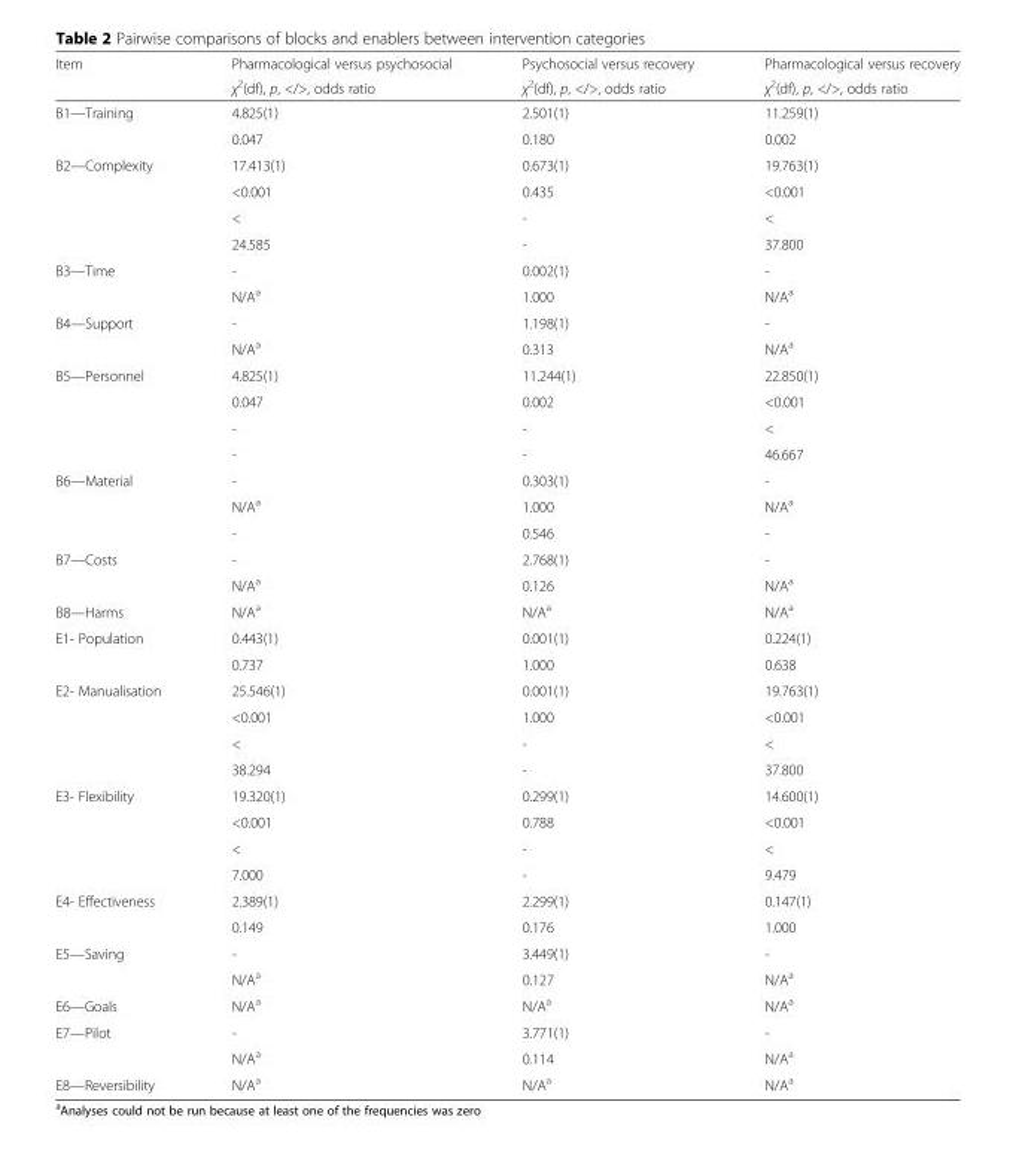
<table><thead><tr><td rowspan="2">Item</td><td rowspan="2">Pharmacological versus psychosocial χ<sup>2</sup>(df), p, &lt;/&gt;, odds ratio</td><td rowspan="2">Psychosocial versus recovery χ<sup>2</sup>(df), p, &lt;/&gt;, odds ratio</td><td rowspan="2">Pharmacological versus recovery χ<sup>2</sup>(df), p, &lt;/&gt;, odds ratio</td></tr><tr></tr></thead><tbody><tr><td rowspan="2">B1—Training</td><td>4.825(1)</td><td>2.501(1)</td><td>11.259(1)</td></tr><tr><td>0.047</td><td>0.180</td><td>0.002</td></tr><tr><td rowspan="4">B2—Complexity</td><td>17.413(1)</td><td>0.673(1)</td><td>19.763(1)</td></tr><tr><td>&lt;0.001</td><td>0.435</td><td>&lt;0.001</td></tr><tr><td>&lt;</td><td>-</td><td>&lt;</td></tr><tr><td>24.585</td><td>-</td><td>37.800</td></tr><tr><td rowspan="2">B3—Time</td><td>-</td><td>0.002(1)</td><td>-</td></tr><tr><td>N/A<sup>a</sup></td><td>1.000</td><td>N/A<sup>a</sup></td></tr><tr><td rowspan="2">B4—Support</td><td>-</td><td>1.198(1)</td><td>-</td></tr><tr><td>N/A<sup>a</sup></td><td>0.313</td><td>N/A<sup>a</sup></td></tr><tr><td rowspan="4">B5—Personnel</td><td>4.825(1)</td><td>11.244(1)</td><td>22.850(1)</td></tr><tr><td>0.047</td><td>0.002</td><td>&lt;0.001</td></tr><tr><td>-</td><td>-</td><td>&lt;</td></tr><tr><td>-</td><td>-</td><td>46.667</td></tr><tr><td rowspan="3">B6—Material</td><td>-</td><td>0.303(1)</td><td>-</td></tr><tr><td>N/A<sup>a</sup></td><td>1.000</td><td>N/A<sup>a</sup></td></tr><tr><td>-</td><td>0.546</td><td>-</td></tr><tr><td rowspan="2">B7—Costs</td><td>-</td><td>2.768(1)</td><td>-</td></tr><tr><td>N/A<sup>a</sup></td><td>0.126</td><td>N/A<sup>a</sup></td></tr><tr><td>B8—Harms</td><td>N/A<sup>a</sup></td><td>N/A<sup>a</sup></td><td>N/A<sup>a</sup></td></tr><tr><td rowspan="2">E1- Population</td><td>0.443(1)</td><td>0.001(1)</td><td>0.224(1)</td></tr><tr><td>0.737</td><td>1.000</td><td>0.638</td></tr><tr><td rowspan="4">E2- Manualisation</td><td>25.546(1)</td><td>0.001(1)</td><td>19.763(1)</td></tr><tr><td>&lt;0.001</td><td>1.000</td><td>&lt;0.001</td></tr><tr><td>&lt;</td><td>-</td><td>&lt;</td></tr><tr><td>38.294</td><td>-</td><td>37.800</td></tr><tr><td rowspan="4">E3- Flexibility</td><td>19.320(1)</td><td>0.299(1)</td><td>14.600(1)</td></tr><tr><td>&lt;0.001</td><td>0.788</td><td>&lt;0.001</td></tr><tr><td>&lt;</td><td>-</td><td>&lt;</td></tr><tr><td>7.000</td><td>-</td><td>9.479</td></tr><tr><td rowspan="2">E4- Effectiveness</td><td>2.389(1)</td><td>2.299(1)</td><td>0.147(1)</td></tr><tr><td>0.149</td><td>0.176</td><td>1.000</td></tr><tr><td rowspan="2">E5—Saving</td><td>-</td><td>3.449(1)</td><td>-</td></tr><tr><td>N/A<sup>a</sup></td><td>0.127</td><td>N/A<sup>a</sup></td></tr><tr><td>E6—Goals</td><td>N/A<sup>a</sup></td><td>N/A<sup>a</sup></td><td>N/A<sup>a</sup></td></tr><tr><td rowspan="2">E7—Pilot</td><td>-</td><td>3.771(1)</td><td>-</td></tr><tr><td>N/A<sup>a</sup></td><td>0.114</td><td>N/A<sup>a</sup></td></tr><tr><td>E8—Reversibility</td><td>N/A<sup>a</sup></td><td>N/A<sup>a</sup></td><td>N/A<sup>a</sup></td></tr></tbody></table>